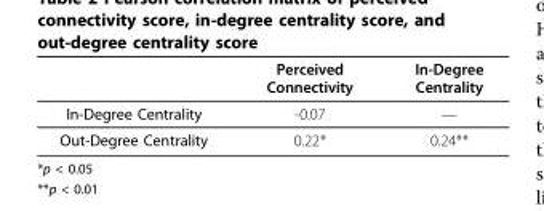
<table><thead><tr><td></td><td>Perceived Connectivity</td><td>In-Degree Centrality</td></tr></thead><tbody><tr><td>In-Degree Centrality</td><td>-0.07</td><td>—</td></tr><tr><td>Out-Degree Centrality</td><td>0.22*</td><td>0.24**</td></tr></tbody></table>